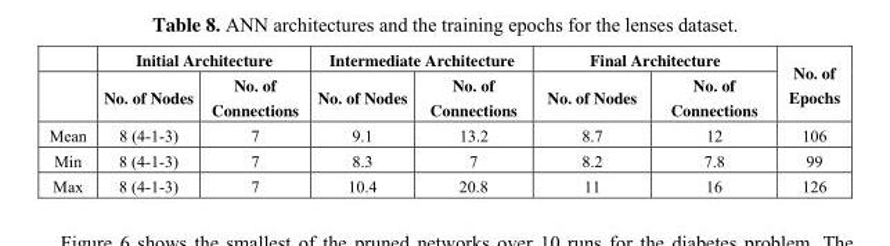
<table><thead><tr><td rowspan="2"></td><td colspan="2">Initial Architecture</td><td colspan="2">Intermediate Architecture</td><td colspan="2">Final Architecture</td><td rowspan="2">No. of Epochs</td></tr><tr><td>No. of Nodes</td><td>No. of Connections</td><td>No. of Nodes</td><td>No. of Connections</td><td>No. of Nodes</td><td>No. of Connections</td></tr></thead><tbody><tr><td>Mean</td><td>8 (4-1-3)</td><td>7</td><td>9.1</td><td>13.2</td><td>8.7</td><td>12</td><td>106</td></tr><tr><td>Min</td><td>8 (4-1-3)</td><td>7</td><td>8.3</td><td>7</td><td>8.2</td><td>7.8</td><td>99</td></tr><tr><td>Max</td><td>8 (4-1-3)</td><td>7</td><td>10.4</td><td>20.8</td><td>11</td><td>16</td><td>126</td></tr></tbody></table>